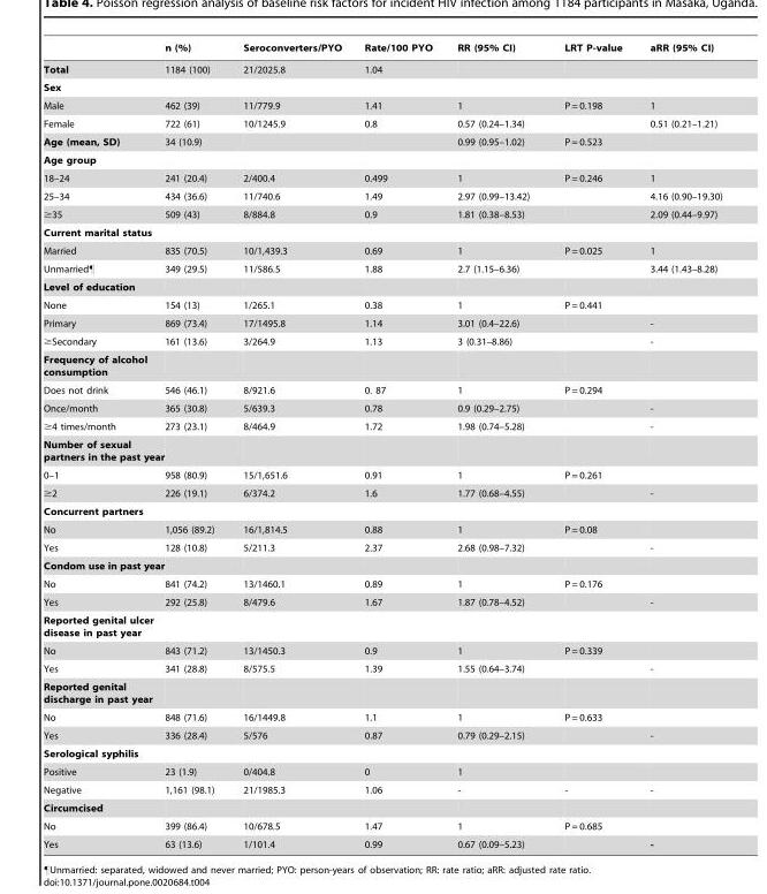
<table><thead><tr><td></td><td>n (%)</td><td>Seroconverters/PYO</td><td>Rate/100 PYO</td><td>RR (95% CI)</td><td>LRT P-value</td><td>aRR (95% CI)</td></tr></thead><tbody><tr><td>Total</td><td>1184 (100)</td><td>21/2025.8</td><td>1.04</td><td></td><td></td><td></td></tr><tr><td colspan="7">Sex</td></tr><tr><td>Male</td><td>462 (39)</td><td>11/779.9</td><td>1.41</td><td>1</td><td>P = 0.198</td><td>1</td></tr><tr><td>Female</td><td>722 (61)</td><td>10/1245.9</td><td>0.8</td><td>0.57 (0.24–1.34)</td><td></td><td>0.51 (0.21–1.21)</td></tr><tr><td>Age (mean, SD)</td><td>34 (10.9)</td><td></td><td></td><td>0.99 (0.95–1.02)</td><td>P = 0.523</td><td></td></tr><tr><td colspan="7">Age group</td></tr><tr><td>18–24</td><td>241 (20.4)</td><td>2/400.4</td><td>0.499</td><td>1</td><td>P = 0.246</td><td>1</td></tr><tr><td>25–34</td><td>434 (36.6)</td><td>11/740.6</td><td>1.49</td><td>2.97 (0.99–13.42)</td><td></td><td>4.16 (0.90–19.30)</td></tr><tr><td>≥35</td><td>509 (43)</td><td>8/884.8</td><td>0.9</td><td>1.81 (0.38–8.53)</td><td></td><td>2.09 (0.44–9.97)</td></tr><tr><td colspan="7">Current marital status</td></tr><tr><td>Married</td><td>835 (70.5)</td><td>10/1,439.3</td><td>0.69</td><td>1</td><td>P = 0.025</td><td>1</td></tr><tr><td>Unmarried¶</td><td>349 (29.5)</td><td>11/586.5</td><td>1.88</td><td>2.7 (1.15–6.36)</td><td></td><td>3.44 (1.43–8.28)</td></tr><tr><td colspan="7">Level of education</td></tr><tr><td>None</td><td>154 (13)</td><td>1/265.1</td><td>0.38</td><td>1</td><td>P = 0.441</td><td></td></tr><tr><td>Primary</td><td>869 (73.4)</td><td>17/1495.8</td><td>1.14</td><td>3.01 (0.4–22.6)</td><td></td><td>-</td></tr><tr><td>≥Secondary</td><td>161 (13.6)</td><td>3/264.9</td><td>1.13</td><td>3 (0.31–8.86)</td><td></td><td>-</td></tr><tr><td colspan="7">Frequency of alcohol consumption</td></tr><tr><td>Does not drink</td><td>546 (46.1)</td><td>8/921.6</td><td>0. 87</td><td>1</td><td>P = 0.294</td><td></td></tr><tr><td>Once/month</td><td>365 (30.8)</td><td>5/639.3</td><td>0.78</td><td>0.9 (0.29–2.75)</td><td></td><td>-</td></tr><tr><td>≥4 times/month</td><td>273 (23.1)</td><td>8/464.9</td><td>1.72</td><td>1.98 (0.74–5.28)</td><td></td><td>-</td></tr><tr><td colspan="7">Number of sexual partners in the past year</td></tr><tr><td>0–1</td><td>958 (80.9)</td><td>15/1,651.6</td><td>0.91</td><td>1</td><td>P = 0.261</td><td></td></tr><tr><td>≥2</td><td>226 (19.1)</td><td>6/374.2</td><td>1.6</td><td>1.77 (0.68–4.55)</td><td></td><td>-</td></tr><tr><td colspan="7">Concurrent partners</td></tr><tr><td>No</td><td>1,056 (89.2)</td><td>16/1,814.5</td><td>0.88</td><td>1</td><td>P = 0.08</td><td></td></tr><tr><td>Yes</td><td>128 (10.8)</td><td>5/211.3</td><td>2.37</td><td>2.68 (0.98–7.32)</td><td></td><td>-</td></tr><tr><td colspan="7">Condom use in past year</td></tr><tr><td>No</td><td>841 (74.2)</td><td>13/1460.1</td><td>0.89</td><td>1</td><td>P = 0.176</td><td></td></tr><tr><td>Yes</td><td>292 (25.8)</td><td>8/479.6</td><td>1.67</td><td>1.87 (0.78–4.52)</td><td></td><td>-</td></tr><tr><td colspan="7">Reported genital ulcer disease in past year</td></tr><tr><td>No</td><td>843 (71.2)</td><td>13/1450.3</td><td>0.9</td><td>1</td><td>P = 0.339</td><td></td></tr><tr><td>Yes</td><td>341 (28.8)</td><td>8/575.5</td><td>1.39</td><td>1.55 (0.64–3.74)</td><td></td><td>-</td></tr><tr><td colspan="7">Reported genital discharge in past year</td></tr><tr><td>No</td><td>848 (71.6)</td><td>16/1449.8</td><td>1.1</td><td>1</td><td>P = 0.633</td><td></td></tr><tr><td>Yes</td><td>336 (28.4)</td><td>5/576</td><td>0.87</td><td>0.79 (0.29–2.15)</td><td></td><td>-</td></tr><tr><td colspan="7">Serological syphilis</td></tr><tr><td>Positive</td><td>23 (1.9)</td><td>0/404.8</td><td>0</td><td>1</td><td></td><td></td></tr><tr><td>Negative</td><td>1,161 (98.1)</td><td>21/1985.3</td><td>1.06</td><td>-</td><td>-</td><td>-</td></tr><tr><td colspan="7">Circumcised</td></tr><tr><td>No</td><td>399 (86.4)</td><td>10/678.5</td><td>1.47</td><td>1</td><td>P = 0.685</td><td></td></tr><tr><td>Yes</td><td>63 (13.6)</td><td>1/101.4</td><td>0.99</td><td>0.67 (0.09–5.23)</td><td></td><td>-</td></tr></tbody></table>